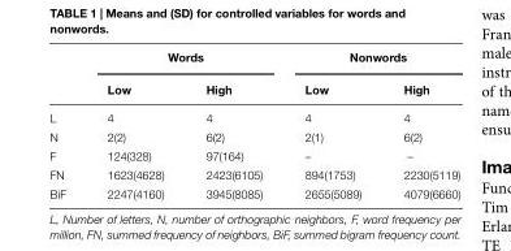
<table><thead><tr><td rowspan="2"></td><td colspan="2">Words</td><td colspan="2">Nonwords</td></tr><tr><td>Low</td><td>High</td><td>Low</td><td>High</td></tr></thead><tbody><tr><td>L</td><td>4</td><td>4</td><td>4</td><td>4</td></tr><tr><td>N</td><td>2(2)</td><td>6(2)</td><td>2(1)</td><td>6(2)</td></tr><tr><td>F</td><td>124(328)</td><td>97(164)</td><td>–</td><td>–</td></tr><tr><td>FN</td><td>1623(4628)</td><td>2423(6105)</td><td>894(1753)</td><td>2230(5119)</td></tr><tr><td>BiF</td><td>2247(4160)</td><td>3945(8085)</td><td>2655(5089)</td><td>4079(6660)</td></tr></tbody></table>